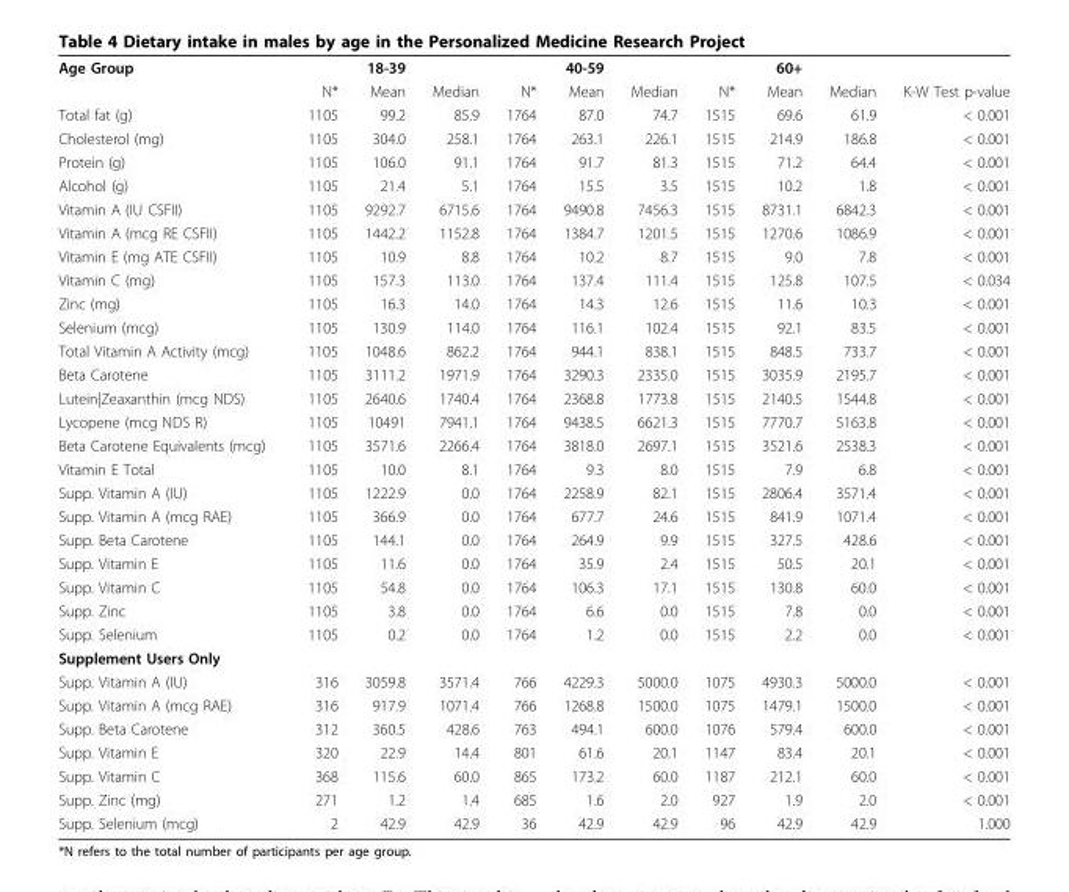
<table><tbody><tr><td rowspan="2">Age Group</td><td></td><td>18-39</td><td></td><td></td><td>40-59</td><td></td><td></td><td>60+</td><td></td><td></td></tr><tr><td>N*</td><td>Mean</td><td>Median</td><td>N*</td><td>Mean</td><td>Median</td><td>N*</td><td>Mean</td><td>Median</td><td>K-W Test p-value</td></tr><tr><td>Total fat (g)</td><td>1105</td><td>99.2</td><td>85.9</td><td>1764</td><td>87.0</td><td>74.7</td><td>1515</td><td>69.6</td><td>61.9</td><td>&lt; 0.001</td></tr><tr><td>Cholesterol (mg)</td><td>1105</td><td>304.0</td><td>258.1</td><td>1764</td><td>263.1</td><td>226.1</td><td>1515</td><td>214.9</td><td>186.8</td><td>&lt; 0.001</td></tr><tr><td>Protein (g)</td><td>1105</td><td>106.0</td><td>91.1</td><td>1764</td><td>91.7</td><td>81.3</td><td>1515</td><td>71.2</td><td>64.4</td><td>&lt; 0.001</td></tr><tr><td>Alcohol (g)</td><td>1105</td><td>21.4</td><td>5.1</td><td>1764</td><td>15.5</td><td>3.5</td><td>1515</td><td>10.2</td><td>1.8</td><td>&lt; 0.001</td></tr><tr><td>Vitamin A (IU CSFII)</td><td>1105</td><td>9292.7</td><td>6715.6</td><td>1764</td><td>9490.8</td><td>7456.3</td><td>1515</td><td>8731.1</td><td>6842.3</td><td>&lt; 0.001</td></tr><tr><td>Vitamin A (mcg RE CSFII)</td><td>1105</td><td>1442.2</td><td>1152.8</td><td>1764</td><td>1384.7</td><td>1201.5</td><td>1515</td><td>1270.6</td><td>1086.9</td><td>&lt; 0.001</td></tr><tr><td>Vitamin E (mg ATE CSFII)</td><td>1105</td><td>10.9</td><td>8.8</td><td>1764</td><td>10.2</td><td>8.7</td><td>1515</td><td>9.0</td><td>7.8</td><td>&lt; 0.001</td></tr><tr><td>Vitamin C (mg)</td><td>1105</td><td>157.3</td><td>113.0</td><td>1764</td><td>137.4</td><td>111.4</td><td>1515</td><td>125.8</td><td>107.5</td><td>&lt; 0.034</td></tr><tr><td>Zinc (mg)</td><td>1105</td><td>16.3</td><td>14.0</td><td>1764</td><td>14.3</td><td>12.6</td><td>1515</td><td>11.6</td><td>10.3</td><td>&lt; 0.001</td></tr><tr><td>Selenium (mcg)</td><td>1105</td><td>130.9</td><td>114.0</td><td>1764</td><td>116.1</td><td>102.4</td><td>1515</td><td>92.1</td><td>83.5</td><td>&lt; 0.001</td></tr><tr><td>Total Vitamin A Activity (mcg)</td><td>1105</td><td>1048.6</td><td>862.2</td><td>1764</td><td>944.1</td><td>838.1</td><td>1515</td><td>848.5</td><td>733.7</td><td>&lt; 0.001</td></tr><tr><td>Beta Carotene</td><td>1105</td><td>3111.2</td><td>1971.9</td><td>1764</td><td>3290.3</td><td>2335.0</td><td>1515</td><td>3035.9</td><td>2195.7</td><td>&lt; 0.001</td></tr><tr><td>Lutein|Zeaxanthin (mcg NDS)</td><td>1105</td><td>2640.6</td><td>1740.4</td><td>1764</td><td>2368.8</td><td>1773.8</td><td>1515</td><td>2140.5</td><td>1544.8</td><td>&lt; 0.001</td></tr><tr><td>Lycopene (mcg NDS R)</td><td>1105</td><td>10491</td><td>7941.1</td><td>1764</td><td>9438.5</td><td>6621.3</td><td>1515</td><td>7770.7</td><td>5163.8</td><td>&lt; 0.001</td></tr><tr><td>Beta Carotene Equivalents (mcg)</td><td>1105</td><td>3571.6</td><td>2266.4</td><td>1764</td><td>3818.0</td><td>2697.1</td><td>1515</td><td>3521.6</td><td>2538.3</td><td>&lt; 0.001</td></tr><tr><td>Vitamin E Total</td><td>1105</td><td>10.0</td><td>8.1</td><td>1764</td><td>9.3</td><td>8.0</td><td>1515</td><td>7.9</td><td>6.8</td><td>&lt; 0.001</td></tr><tr><td>Supp. Vitamin A (IU)</td><td>1105</td><td>1222.9</td><td>0.0</td><td>1764</td><td>2258.9</td><td>82.1</td><td>1515</td><td>2806.4</td><td>3571.4</td><td>&lt; 0.001</td></tr><tr><td>Supp. Vitamin A (mcg RAE)</td><td>1105</td><td>366.9</td><td>0.0</td><td>1764</td><td>677.7</td><td>24.6</td><td>1515</td><td>841.9</td><td>1071.4</td><td>&lt; 0.001</td></tr><tr><td>Supp. Beta Carotene</td><td>1105</td><td>144.1</td><td>0.0</td><td>1764</td><td>264.9</td><td>9.9</td><td>1515</td><td>327.5</td><td>428.6</td><td>&lt; 0.001</td></tr><tr><td>Supp. Vitamin E</td><td>1105</td><td>11.6</td><td>0.0</td><td>1764</td><td>35.9</td><td>2.4</td><td>1515</td><td>50.5</td><td>20.1</td><td>&lt; 0.001</td></tr><tr><td>Supp. Vitamin C</td><td>1105</td><td>54.8</td><td>0.0</td><td>1764</td><td>106.3</td><td>17.1</td><td>1515</td><td>130.8</td><td>60.0</td><td>&lt; 0.001</td></tr><tr><td>Supp. Zinc</td><td>1105</td><td>3.8</td><td>0.0</td><td>1764</td><td>6.6</td><td>0.0</td><td>1515</td><td>7.8</td><td>0.0</td><td>&lt; 0.001</td></tr><tr><td>Supp. Selenium</td><td>1105</td><td>0.2</td><td>0.0</td><td>1764</td><td>1.2</td><td>0.0</td><td>1515</td><td>2.2</td><td>0.0</td><td>&lt; 0.001</td></tr><tr><td colspan="11">Supplement Users Only</td></tr><tr><td>Supp. Vitamin A (IU)</td><td>316</td><td>3059.8</td><td>3571.4</td><td>766</td><td>4229.3</td><td>5000.0</td><td>1075</td><td>4930.3</td><td>5000.0</td><td>&lt; 0.001</td></tr><tr><td>Supp. Vitamin A (mcg RAE)</td><td>316</td><td>917.9</td><td>1071.4</td><td>766</td><td>1268.8</td><td>1500.0</td><td>1075</td><td>1479.1</td><td>1500.0</td><td>&lt; 0.001</td></tr><tr><td>Supp. Beta Carotene</td><td>312</td><td>360.5</td><td>428.6</td><td>763</td><td>494.1</td><td>600.0</td><td>1076</td><td>579.4</td><td>600.0</td><td>&lt; 0.001</td></tr><tr><td>Supp. Vitamin E</td><td>320</td><td>22.9</td><td>14.4</td><td>801</td><td>61.6</td><td>20.1</td><td>1147</td><td>83.4</td><td>20.1</td><td>&lt; 0.001</td></tr><tr><td>Supp. Vitamin C</td><td>368</td><td>115.6</td><td>60.0</td><td>865</td><td>173.2</td><td>60.0</td><td>1187</td><td>212.1</td><td>60.0</td><td>&lt; 0.001</td></tr><tr><td>Supp. Zinc (mg)</td><td>271</td><td>1.2</td><td>1.4</td><td>685</td><td>1.6</td><td>2.0</td><td>927</td><td>1.9</td><td>2.0</td><td>&lt; 0.001</td></tr><tr><td>Supp. Selenium (mcg)</td><td>2</td><td>42.9</td><td>42.9</td><td>36</td><td>42.9</td><td>42.9</td><td>96</td><td>42.9</td><td>42.9</td><td>1.000</td></tr></tbody></table>